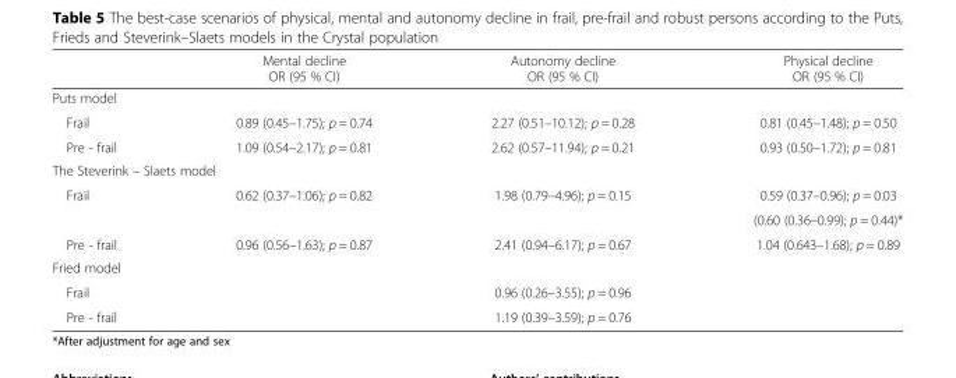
<table><thead><tr><td></td><td>Mental decline OR (95 % CI)</td><td>Autonomy decline OR (95 % CI)</td><td>Physical decline OR (95 % CI)</td></tr></thead><tbody><tr><td colspan="4">Puts model</td></tr><tr><td>Frail</td><td>0.89 (0.45–1.75); p = 0.74</td><td>2.27 (0.51–10.12); p = 0.28</td><td>0.81 (0.45–1.48); p = 0.50</td></tr><tr><td>Pre - frail</td><td>1.09 (0.54–2.17); p = 0.81</td><td>2.62 (0.57–11.94); p = 0.21</td><td>0.93 (0.50–1.72); p = 0.81</td></tr><tr><td colspan="4">The Steverink – Slaets model</td></tr><tr><td>Frail</td><td>0.62 (0.37–1.06); p = 0.82</td><td>1.98 (0.79–4.96); p = 0.15</td><td>0.59 (0.37–0.96); p = 0.03</td></tr><tr><td colspan="3"></td><td>(0.60 (0.36–0.99); p = 0.44)*</td></tr><tr><td>Pre - frail</td><td>0.96 (0.56–1.63); p = 0.87</td><td>2.41 (0.94–6.17); p = 0.67</td><td>1.04 (0.643–1.68); p = 0.89</td></tr><tr><td colspan="4">Fried model</td></tr><tr><td>Frail</td><td></td><td>0.96 (0.26–3.55); p = 0.96</td><td></td></tr><tr><td>Pre - frail</td><td></td><td>1.19 (0.39–3.59); p = 0.76</td><td></td></tr></tbody></table>